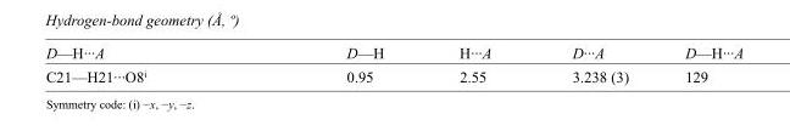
<table><tbody><tr><td>D—H···A</td><td>D—H</td><td>H···A</td><td>D···A</td><td>D—H···A</td></tr><tr><td>C21—H21···O8<sup>i</sup></td><td>0.95</td><td>2.55</td><td>3.238 (3)</td><td>129</td></tr></tbody></table>